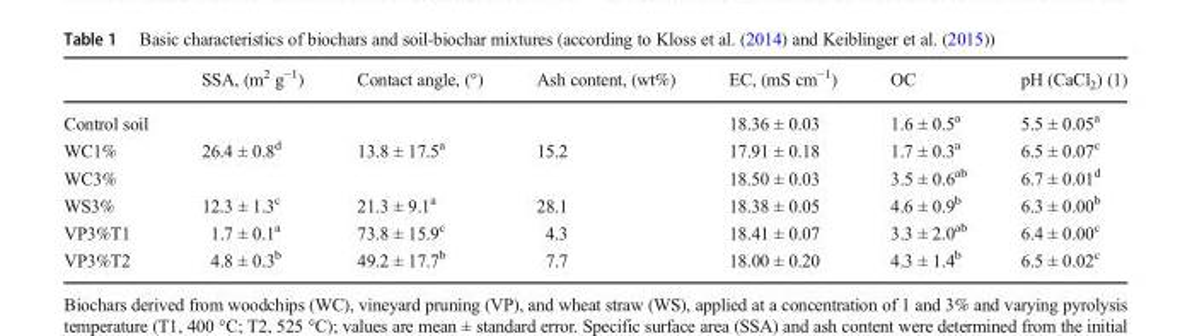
<table><thead><tr><td></td><td>SSA, (m<sup>2</sup> g<sup>−1</sup>)</td><td>Contact angle, (°)</td><td>Ash content, (wt%)</td><td>EC, (mS cm<sup>−1</sup>)</td><td>OC</td><td>pH (CaCl<sub>2</sub>) (1)</td></tr></thead><tbody><tr><td>Control soil</td><td></td><td></td><td></td><td>18.36 ± 0.03</td><td>1.6 ± 0.5<sup>a</sup></td><td>5.5 ± 0.05<sup>a</sup></td></tr><tr><td>WC1%</td><td rowspan="2">26.4 ± 0.8<sup>d</sup></td><td rowspan="2">13.8 ± 17.5<sup>a</sup></td><td rowspan="2">15.2</td><td>17.91 ± 0.18</td><td>1.7 ± 0.3<sup>a</sup></td><td>6.5 ± 0.07<sup>c</sup></td></tr><tr><td>WC3%</td><td>18.50 ± 0.03</td><td>3.5 ± 0.6<sup>ab</sup></td><td>6.7 ± 0.01<sup>d</sup></td></tr><tr><td>WS3%</td><td>12.3 ± 1.3<sup>c</sup></td><td>21.3 ± 9.1<sup>a</sup></td><td>28.1</td><td>18.38 ± 0.05</td><td>4.6 ± 0.9<sup>b</sup></td><td>6.3 ± 0.00<sup>b</sup></td></tr><tr><td>VP3%T1</td><td>1.7 ± 0.1<sup>a</sup></td><td>73.8 ± 15.9<sup>c</sup></td><td>4.3</td><td>18.41 ± 0.07</td><td>3.3 ± 2.0<sup>ab</sup></td><td>6.4 ± 0.00<sup>c</sup></td></tr><tr><td>VP3%T2</td><td>4.8 ± 0.3<sup>b</sup></td><td>49.2 ± 17.7<sup>b</sup></td><td>7.7</td><td>18.00 ± 0.20</td><td>4.3 ± 1.4<sup>b</sup></td><td>6.5 ± 0.02<sup>c</sup></td></tr></tbody></table>